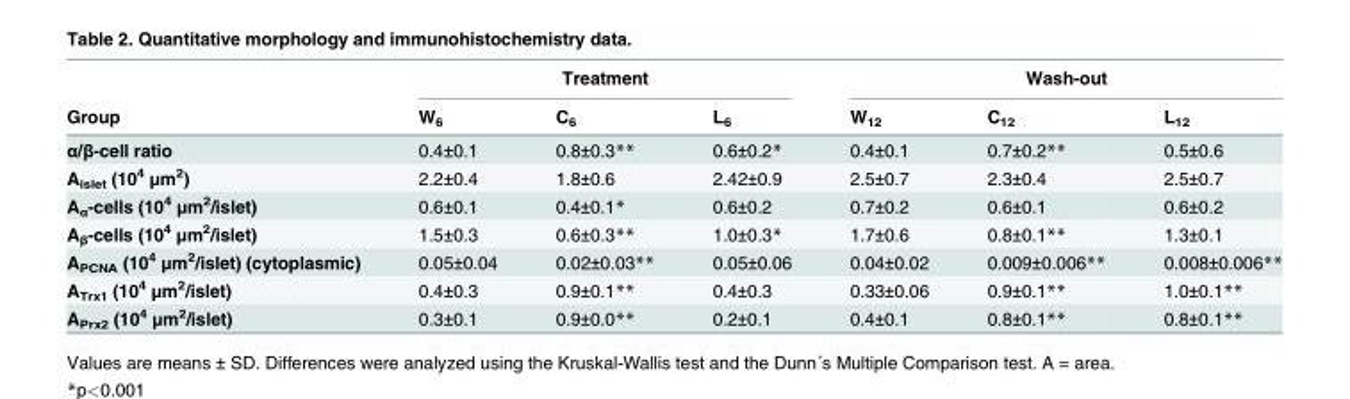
<table><thead><tr><td rowspan="2">Group</td><td colspan="3">Treatment</td><td colspan="3">Wash-out</td></tr><tr><td>W<sub>6</sub></td><td>C<sub>6</sub></td><td>L<sub>6</sub></td><td>W<sub>12</sub></td><td>C<sub>12</sub></td><td>L<sub>12</sub></td></tr></thead><tbody><tr><td>α/β-cell ratio</td><td>0.4±0.1</td><td>0.8±0.3**</td><td>0.6±0.2*</td><td>0.4±0.1</td><td>0.7±0.2**</td><td>0.5±0.6</td></tr><tr><td>A<sub>islet</sub> (10<sup>4</sup> μm<sup>2</sup>)</td><td>2.2±0.4</td><td>1.8±0.6</td><td>2.42±0.9</td><td>2.5±0.7</td><td>2.3±0.4</td><td>2.5±0.7</td></tr><tr><td>A<sub>α</sub>-cells (10<sup>4</sup> μm<sup>2</sup>/islet)</td><td>0.6±0.1</td><td>0.4±0.1*</td><td>0.6±0.2</td><td>0.7±0.2</td><td>0.6±0.1</td><td>0.6±0.2</td></tr><tr><td>A<sub>β</sub>-cells (10<sup>4</sup> μm<sup>2</sup>/islet)</td><td>1.5±0.3</td><td>0.6±0.3**</td><td>1.0±0.3*</td><td>1.7±0.6</td><td>0.8±0.1**</td><td>1.3±0.1</td></tr><tr><td>A<sub>PCNA</sub> (10<sup>4</sup> μm<sup>2</sup>/islet) (cytoplasmic)</td><td>0.05±0.04</td><td>0.02±0.03**</td><td>0.05±0.06</td><td>0.04±0.02</td><td>0.009±0.006**</td><td>0.008±0.006**</td></tr><tr><td>A<sub>Trx1</sub> (10<sup>4</sup> μm<sup>2</sup>/islet)</td><td>0.4±0.3</td><td>0.9±0.1**</td><td>0.4±0.3</td><td>0.33±0.06</td><td>0.9±0.1**</td><td>1.0±0.1**</td></tr><tr><td>A<sub>Prx2</sub> (10<sup>4</sup> μm<sup>2</sup>/islet)</td><td>0.3±0.1</td><td>0.9±0.0**</td><td>0.2±0.1</td><td>0.4±0.1</td><td>0.8±0.1**</td><td>0.8±0.1**</td></tr></tbody></table>